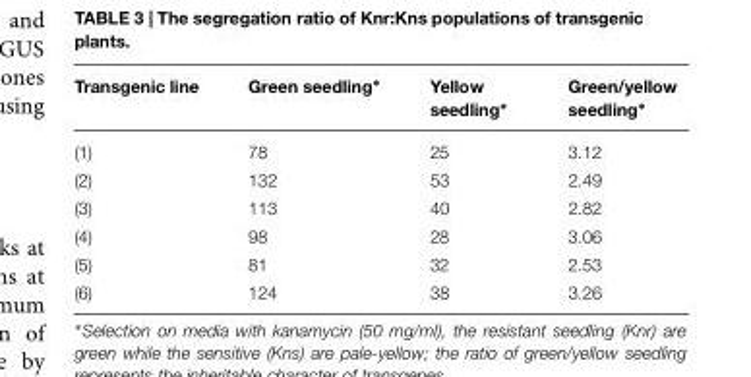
<table><thead><tr><td>Transgenic line</td><td>Green seedling∗</td><td>Yellow seedling∗</td><td>Green/yellow seedling∗</td></tr></thead><tbody><tr><td>(1)</td><td>78</td><td>25</td><td>3.12</td></tr><tr><td>(2)</td><td>132</td><td>53</td><td>2.49</td></tr><tr><td>(3)</td><td>113</td><td>40</td><td>2.82</td></tr><tr><td>(4)</td><td>98</td><td>28</td><td>3.06</td></tr><tr><td>(5)</td><td>81</td><td>32</td><td>2.53</td></tr><tr><td>(6)</td><td>124</td><td>38</td><td>3.26</td></tr></tbody></table>